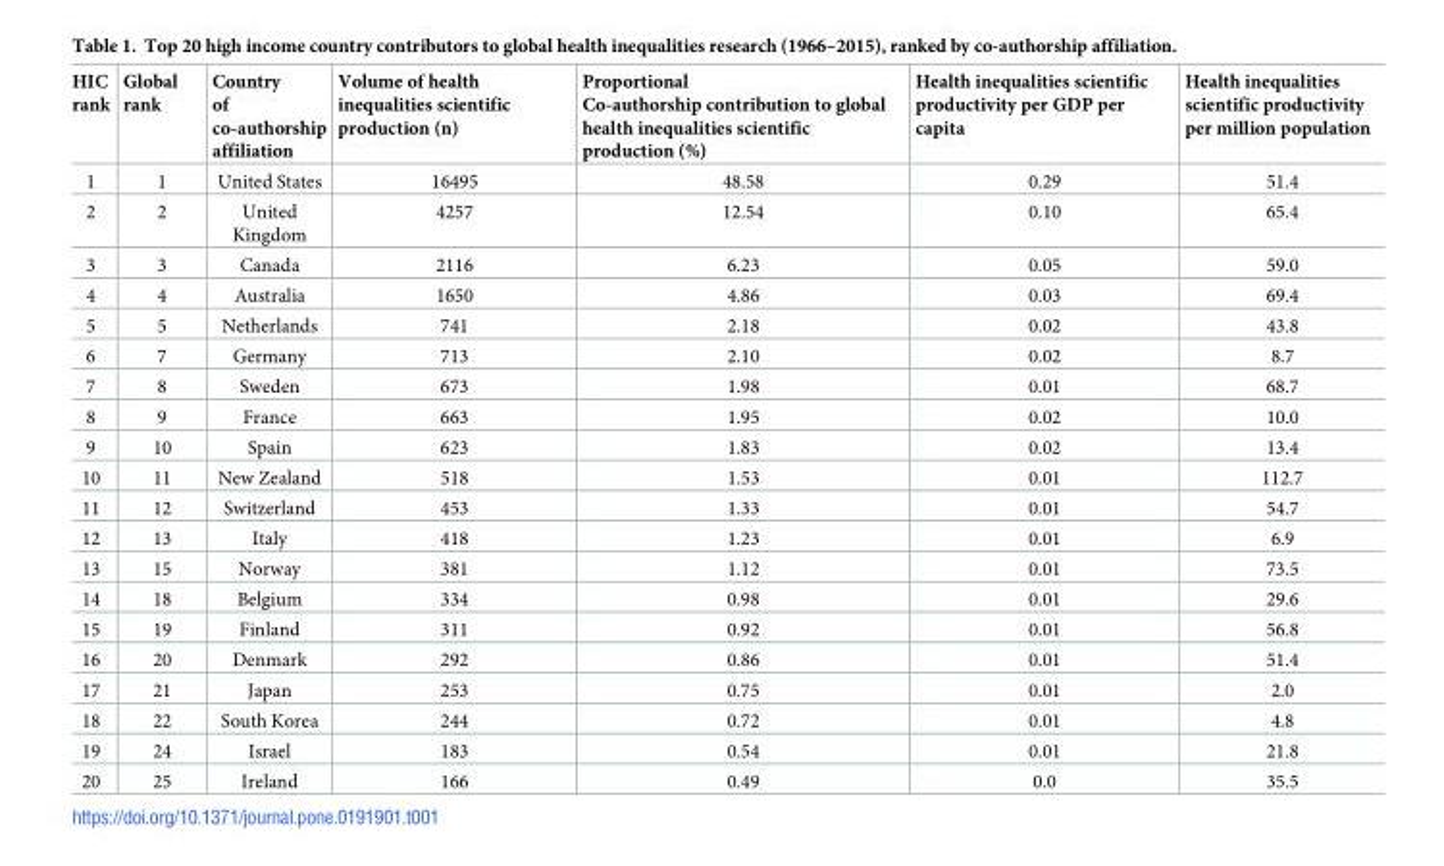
<table><thead><tr><td>HIC rank</td><td>Global rank</td><td>Country of co-authorship affiliation</td><td>Volume of health inequalities scientific production (n)</td><td>Proportional Co-authorship contribution to global health inequalities scientific production (%)</td><td>Health inequalities scientific productivity per GDP per capita</td><td>Health inequalities scientific productivity per million population</td></tr></thead><tbody><tr><td>1</td><td>1</td><td>United States</td><td>16495</td><td>48.58</td><td>0.29</td><td>51.4</td></tr><tr><td>2</td><td>2</td><td>United Kingdom</td><td>4257</td><td>12.54</td><td>0.10</td><td>65.4</td></tr><tr><td>3</td><td>3</td><td>Canada</td><td>2116</td><td>6.23</td><td>0.05</td><td>59.0</td></tr><tr><td>4</td><td>4</td><td>Australia</td><td>1650</td><td>4.86</td><td>0.03</td><td>69.4</td></tr><tr><td>5</td><td>5</td><td>Netherlands</td><td>741</td><td>2.18</td><td>0.02</td><td>43.8</td></tr><tr><td>6</td><td>7</td><td>Germany</td><td>713</td><td>2.10</td><td>0.02</td><td>8.7</td></tr><tr><td>7</td><td>8</td><td>Sweden</td><td>673</td><td>1.98</td><td>0.01</td><td>68.7</td></tr><tr><td>8</td><td>9</td><td>France</td><td>663</td><td>1.95</td><td>0.02</td><td>10.0</td></tr><tr><td>9</td><td>10</td><td>Spain</td><td>623</td><td>1.83</td><td>0.02</td><td>13.4</td></tr><tr><td>10</td><td>11</td><td>New Zealand</td><td>518</td><td>1.53</td><td>0.01</td><td>112.7</td></tr><tr><td>11</td><td>12</td><td>Switzerland</td><td>453</td><td>1.33</td><td>0.01</td><td>54.7</td></tr><tr><td>12</td><td>13</td><td>Italy</td><td>418</td><td>1.23</td><td>0.01</td><td>6.9</td></tr><tr><td>13</td><td>15</td><td>Norway</td><td>381</td><td>1.12</td><td>0.01</td><td>73.5</td></tr><tr><td>14</td><td>18</td><td>Belgium</td><td>334</td><td>0.98</td><td>0.01</td><td>29.6</td></tr><tr><td>15</td><td>19</td><td>Finland</td><td>311</td><td>0.92</td><td>0.01</td><td>56.8</td></tr><tr><td>16</td><td>20</td><td>Denmark</td><td>292</td><td>0.86</td><td>0.01</td><td>51.4</td></tr><tr><td>17</td><td>21</td><td>Japan</td><td>253</td><td>0.75</td><td>0.01</td><td>2.0</td></tr><tr><td>18</td><td>22</td><td>South Korea</td><td>244</td><td>0.72</td><td>0.01</td><td>4.8</td></tr><tr><td>19</td><td>24</td><td>Israel</td><td>183</td><td>0.54</td><td>0.01</td><td>21.8</td></tr><tr><td>20</td><td>25</td><td>Ireland</td><td>166</td><td>0.49</td><td>0.0</td><td>35.5</td></tr></tbody></table>